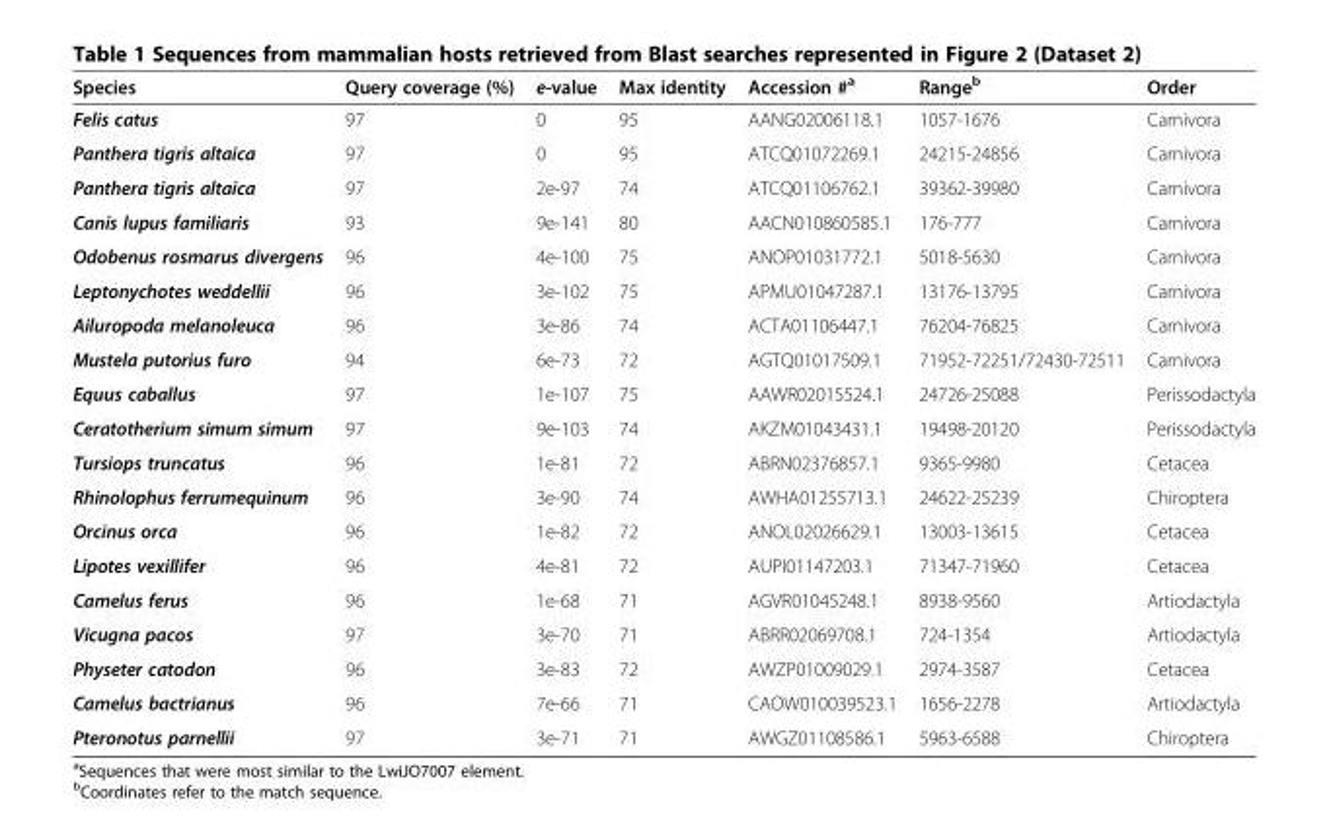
<table><thead><tr><td>Species</td><td>Query coverage (%)</td><td>e-value</td><td>Max identity</td><td>Accession #<sup>a</sup></td><td>Range<sup>b</sup></td><td>Order</td></tr></thead><tbody><tr><td>Felis catus</td><td>97</td><td>0</td><td>95</td><td>AANG02006118.1</td><td>1057-1676</td><td>Carnivora</td></tr><tr><td>Panthera tigris altaica</td><td>97</td><td>0</td><td>95</td><td>ATCQ01072269.1</td><td>24215-24856</td><td>Carnivora</td></tr><tr><td>Panthera tigris altaica</td><td>97</td><td>2e-97</td><td>74</td><td>ATCQ01106762.1</td><td>39362-39980</td><td>Carnivora</td></tr><tr><td>Canis lupus familiaris</td><td>93</td><td>9e-141</td><td>80</td><td>AACN010860585.1</td><td>176-777</td><td>Carnivora</td></tr><tr><td>Odobenus rosmarus divergens</td><td>96</td><td>4e-100</td><td>75</td><td>ANOP01031772.1</td><td>5018-5630</td><td>Carnivora</td></tr><tr><td>Leptonychotes weddellii</td><td>96</td><td>3e-102</td><td>75</td><td>APMU01047287.1</td><td>13176-13795</td><td>Carnivora</td></tr><tr><td>Ailuropoda melanoleuca</td><td>96</td><td>3e-86</td><td>74</td><td>ACTA01106447.1</td><td>76204-76825</td><td>Carnivora</td></tr><tr><td>Mustela putorius furo</td><td>94</td><td>6e-73</td><td>72</td><td>AGTQ01017509.1</td><td>71952-72251/72430-72511</td><td>Carnivora</td></tr><tr><td>Equus caballus</td><td>97</td><td>1e-107</td><td>75</td><td>AAWR02015524.1</td><td>24726-25088</td><td>Perissodactyla</td></tr><tr><td>Ceratotherium simum simum</td><td>97</td><td>9e-103</td><td>74</td><td>AKZM01043431.1</td><td>19498-20120</td><td>Perissodactyla</td></tr><tr><td>Tursiops truncatus</td><td>96</td><td>1e-81</td><td>72</td><td>ABRN02376857.1</td><td>9365-9980</td><td>Cetacea</td></tr><tr><td>Rhinolophus ferrumequinum</td><td>96</td><td>3e-90</td><td>74</td><td>AWHA01255713.1</td><td>24622-25239</td><td>Chiroptera</td></tr><tr><td>Orcinus orca</td><td>96</td><td>1e-82</td><td>72</td><td>ANOL02026629.1</td><td>13003-13615</td><td>Cetacea</td></tr><tr><td>Lipotes vexillifer</td><td>96</td><td>4e-81</td><td>72</td><td>AUPI01147203.1</td><td>71347-71960</td><td>Cetacea</td></tr><tr><td>Camelus ferus</td><td>96</td><td>1e-68</td><td>71</td><td>AGVR01045248.1</td><td>8938-9560</td><td>Artiodactyla</td></tr><tr><td>Vicugna pacos</td><td>97</td><td>3e-70</td><td>71</td><td>ABRR02069708.1</td><td>724-1354</td><td>Artiodactyla</td></tr><tr><td>Physeter catodon</td><td>96</td><td>3e-83</td><td>72</td><td>AWZP01009029.1</td><td>2974-3587</td><td>Cetacea</td></tr><tr><td>Camelus bactrianus</td><td>96</td><td>7e-66</td><td>71</td><td>CAOW010039523.1</td><td>1656-2278</td><td>Artiodactyla</td></tr><tr><td>Pteronotus parnellii</td><td>97</td><td>3e-71</td><td>71</td><td>AWGZ01108586.1</td><td>5963-6588</td><td>Chiroptera</td></tr></tbody></table>